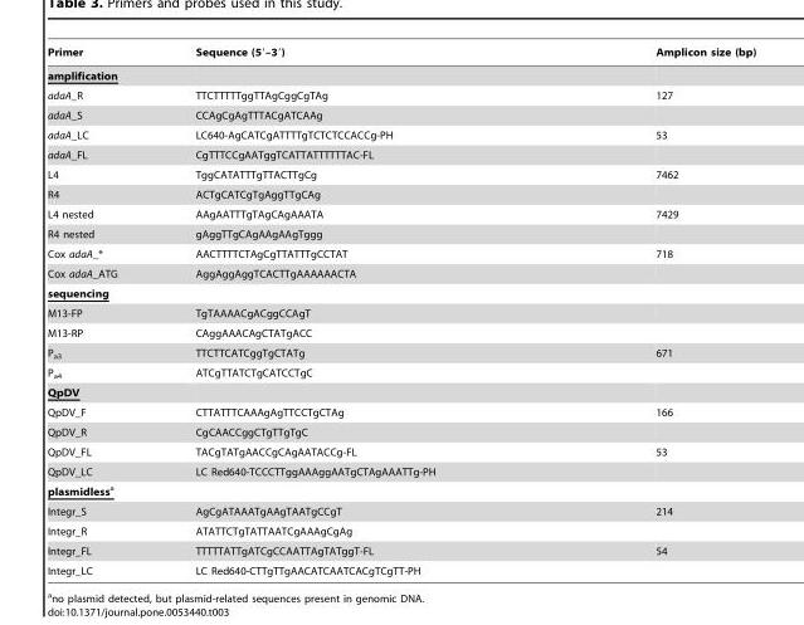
<table><thead><tr><td>Primer</td><td>Sequence (5′–3′)</td><td>Amplicon size (bp)</td></tr></thead><tbody><tr><td colspan="3">amplification</td></tr><tr><td>adaA_R</td><td>TTCTTTTTggTTAgCggCgTAg</td><td>127</td></tr><tr><td>adaA_S</td><td>CCAgCgAgTTTACgATCAAg</td><td></td></tr><tr><td>adaA_LC</td><td>LC640-AgCATCgATTTTgTCTCTCCACCg-PH</td><td>53</td></tr><tr><td>adaA_FL</td><td>CgTTTCCgAATggTCATTATTTTTTAC-FL</td><td></td></tr><tr><td>L4</td><td>TggCATATTTgTTACTTgCg</td><td>7462</td></tr><tr><td>R4</td><td>ACTgCATCgTgAggTTgCAg</td><td></td></tr><tr><td>L4 nested</td><td>AAgAATTTgTAgCAgAAATA</td><td>7429</td></tr><tr><td>R4 nested</td><td>gAggTTgCAgAAgAAgTggg</td><td></td></tr><tr><td>Cox adaA_*</td><td>AACTTTTCTAgCgTTATTTgCCTAT</td><td>718</td></tr><tr><td>Cox adaA_ATG</td><td>AggAggAggTCACTTgAAAAAACTA</td><td></td></tr><tr><td colspan="3">sequencing</td></tr><tr><td>M13-FP</td><td>TgTAAAACgACggCCAgT</td><td></td></tr><tr><td>M13-RP</td><td>CAggAAACAgCTATgACC</td><td></td></tr><tr><td>P<sub>a3</sub></td><td>TTCTTCATCggTgCTATg</td><td>671</td></tr><tr><td>P<sub>a4</sub></td><td>ATCgTTATCTgCATCCTgC</td><td></td></tr><tr><td colspan="3">QpDV</td></tr><tr><td>QpDV_F</td><td>CTTATTTCAAAgAgTTCCTgCTAg</td><td>166</td></tr><tr><td>QpDV_R</td><td>CgCAACCggCTgTTgTgC</td><td></td></tr><tr><td>QpDV_FL</td><td>TACgTATgAACCgCAgAATACCg-FL</td><td>53</td></tr><tr><td>QpDV_LC</td><td>LC Red640-TCCCTTggAAAggAATgCTAgAAATTg-PH</td><td></td></tr><tr><td colspan="3">plasmidlessa</td></tr><tr><td>Integr_S</td><td>AgCgATAAATgAAgTAATgCCgT</td><td>214</td></tr><tr><td>Integr_R</td><td>ATATTCTgTATTAATCgAAAgCgAg</td><td></td></tr><tr><td>Integr_FL</td><td>TTTTTATTgATCgCCAATTAgTATggT-FL</td><td>54</td></tr><tr><td>Integr_LC</td><td>LC Red640-CTTgTTgAACATCAATCACgTCgTT-PH</td><td></td></tr></tbody></table>